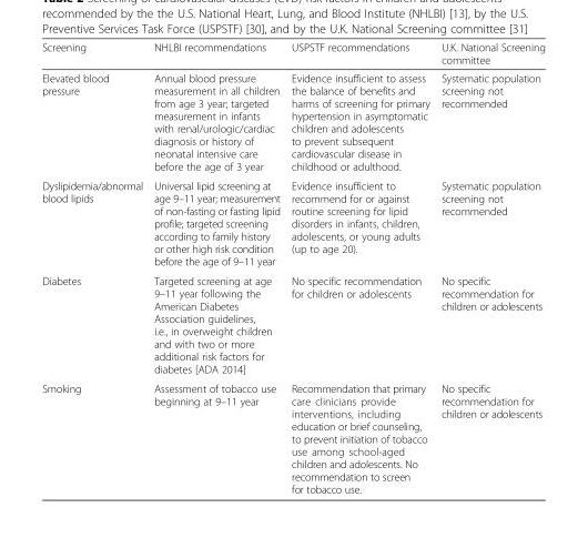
<table><thead><tr><td>Screening</td><td>NHLBI recommendations</td><td>USPSTF recommendations</td><td>U.K. National Screening committee</td></tr></thead><tbody><tr><td>Elevated blood pressure</td><td>Annual blood pressure measurement in all children from age 3 year; targeted measurement in infants with renal/urologic/cardiac diagnosis or history of neonatal intensive care before the age of 3 year</td><td>Evidence insufficient to assess the balance of benefits and harms of screening for primary hypertension in asymptomatic children and adolescents to prevent subsequent cardiovascular disease in childhood or adulthood.</td><td>Systematic population screening not recommended</td></tr><tr><td>Dyslipidemia/abnormal blood lipids</td><td>Universal lipid screening at age 9–11 year; measurement of non-fasting or fasting lipid profile; targeted screening according to family history or other high risk condition before the age of 9–11 year</td><td>Evidence insufficient to recommend for or against routine screening for lipid disorders in infants, children, adolescents, or young adults (up to age 20).</td><td>Systematic population screening not recommended</td></tr><tr><td>Diabetes</td><td>Targeted screening at age 9–11 year following the American Diabetes Association guidelines, i.e., in overweight children and with two or more additional risk factors for diabetes [ADA 2014]</td><td>No specific recommendation for children or adolescents</td><td>No specific recommendation for children or adolescents</td></tr><tr><td>Smoking</td><td>Assessment of tobacco use beginning at 9–11 year</td><td>Recommendation that primary care clinicians provide interventions, including education or brief counseling, to prevent initiation of tobacco use among school-aged children and adolescents. No recommendation to screen for tobacco use.</td><td>No specific recommendation for children or adolescents</td></tr></tbody></table>